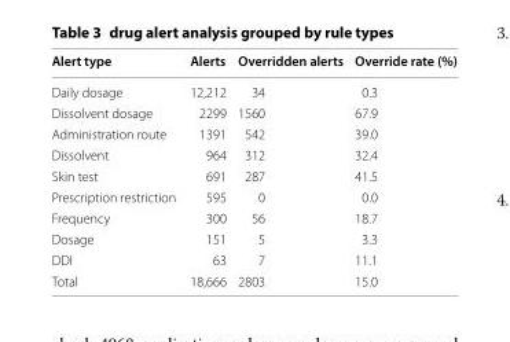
<table><thead><tr><td>Alert type</td><td>Alerts</td><td>Overridden alerts</td><td>Override rate (%)</td></tr></thead><tbody><tr><td>Daily dosage</td><td>12,212</td><td>34</td><td>0.3</td></tr><tr><td>Dissolvent dosage</td><td>2299</td><td>1560</td><td>67.9</td></tr><tr><td>Administration route</td><td>1391</td><td>542</td><td>39.0</td></tr><tr><td>Dissolvent</td><td>964</td><td>312</td><td>32.4</td></tr><tr><td>Skin test</td><td>691</td><td>287</td><td>41.5</td></tr><tr><td>Prescription restriction</td><td>595</td><td>0</td><td>0.0</td></tr><tr><td>Frequency</td><td>300</td><td>56</td><td>18.7</td></tr><tr><td>Dosage</td><td>151</td><td>5</td><td>3.3</td></tr><tr><td>DDI</td><td>63</td><td>7</td><td>11.1</td></tr><tr><td>Total</td><td>18,666</td><td>2803</td><td>15.0</td></tr></tbody></table>